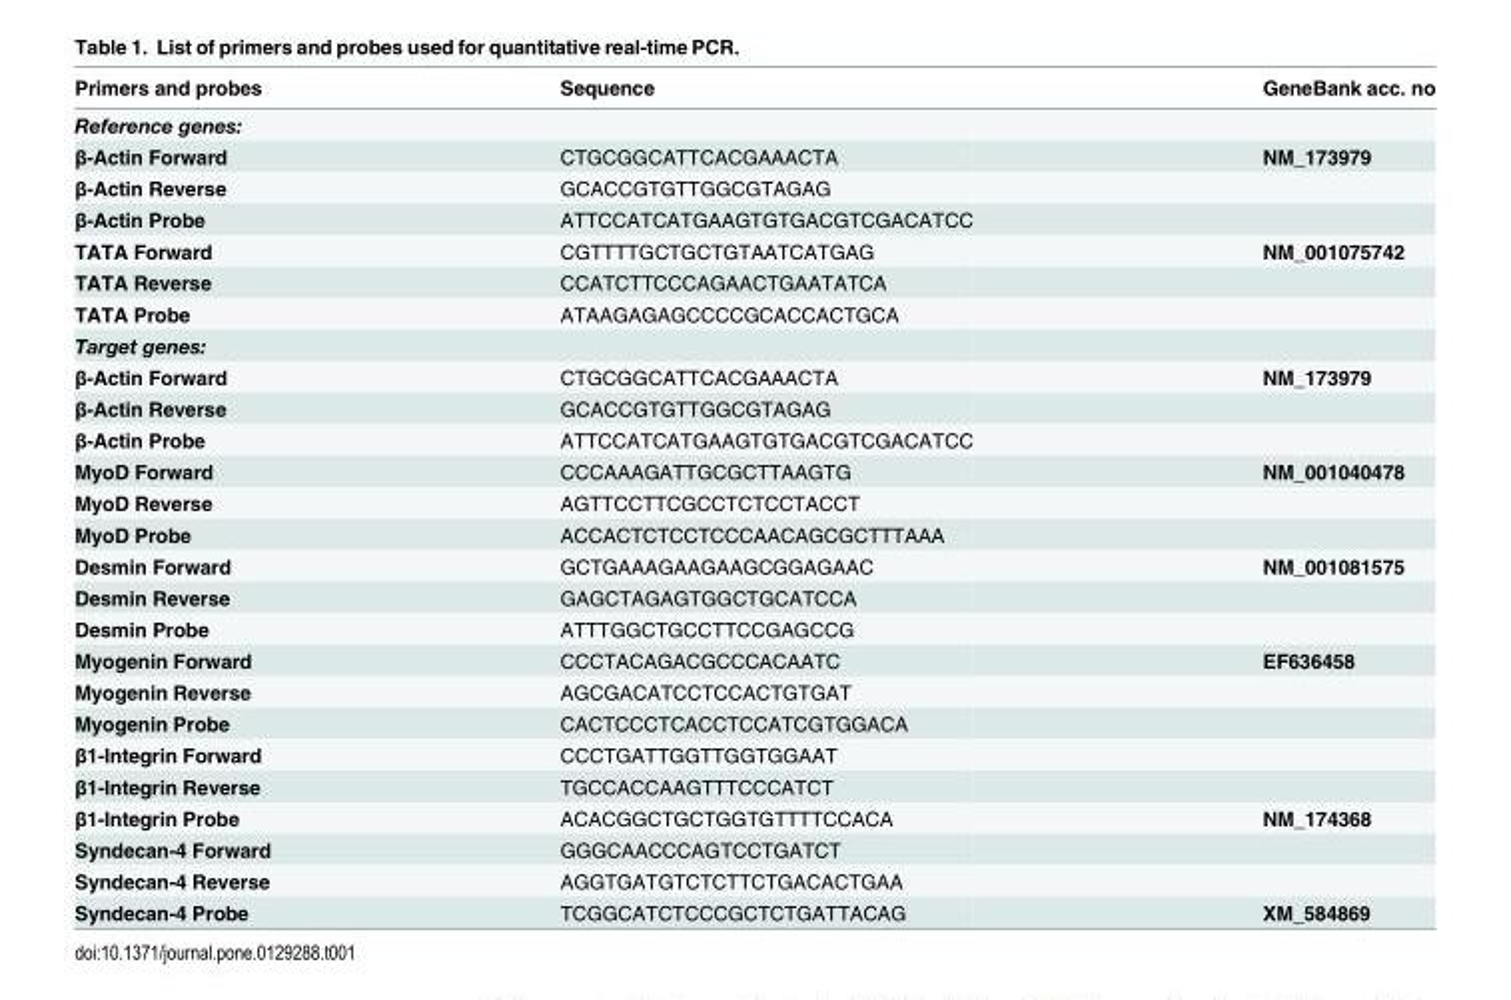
<table><thead><tr><td>Primers and probes</td><td>Sequence</td><td>GeneBank acc. no</td></tr></thead><tbody><tr><td colspan="3">Reference genes:</td></tr><tr><td>β-Actin Forward</td><td>CTGCGGCATTCACGAAACTA</td><td>NM_173979</td></tr><tr><td>β-Actin Reverse</td><td>GCACCGTGTTGGCGTAGAG</td><td></td></tr><tr><td>β-Actin Probe</td><td>ATTCCATCATGAAGTGTGACGTCGACATCC</td><td></td></tr><tr><td>TATA Forward</td><td>CGTTTTGCTGCTGTAATCATGAG</td><td>NM_001075742</td></tr><tr><td>TATA Reverse</td><td>CCATCTTCCCAGAACTGAATATCA</td><td></td></tr><tr><td>TATA Probe</td><td>ATAAGAGAGCCCCGCACCACTGCA</td><td></td></tr><tr><td colspan="3">Target genes:</td></tr><tr><td>β-Actin Forward</td><td>CTGCGGCATTCACGAAACTA</td><td>NM_173979</td></tr><tr><td>β-Actin Reverse</td><td>GCACCGTGTTGGCGTAGAG</td><td></td></tr><tr><td>β-Actin Probe</td><td>ATTCCATCATGAAGTGTGACGTCGACATCC</td><td></td></tr><tr><td>MyoD Forward</td><td>CCCAAAGATTGCGCTTAAGTG</td><td>NM_001040478</td></tr><tr><td>MyoD Reverse</td><td>AGTTCCTTCGCCTCTCCTACCT</td><td></td></tr><tr><td>MyoD Probe</td><td>ACCACTCTCCTCCCAACAGCGCTTTAAA</td><td></td></tr><tr><td>Desmin Forward</td><td>GCTGAAAGAAGAAGCGGAGAAC</td><td>NM_001081575</td></tr><tr><td>Desmin Reverse</td><td>GAGCTAGAGTGGCTGCATCCA</td><td></td></tr><tr><td>Desmin Probe</td><td>ATTTGGCTGCCTTCCGAGCCG</td><td></td></tr><tr><td>Myogenin Forward</td><td>CCCTACAGACGCCCACAATC</td><td>EF636458</td></tr><tr><td>Myogenin Reverse</td><td>AGCGACATCCTCCACTGTGAT</td><td></td></tr><tr><td>Myogenin Probe</td><td>CACTCCCTCACCTCCATCGTGGACA</td><td></td></tr><tr><td>β1-Integrin Forward</td><td>CCCTGATTGGTTGGTGGAAT</td><td></td></tr><tr><td>β1-Integrin Reverse</td><td>TGCCACCAAGTTTCCCATCT</td><td></td></tr><tr><td>β1-Integrin Probe</td><td>ACACGGCTGCTGGTGTTTTCCACA</td><td>NM_174368</td></tr><tr><td>Syndecan-4 Forward</td><td>GGGCAACCCAGTCCTGATCT</td><td></td></tr><tr><td>Syndecan-4 Reverse</td><td>AGGTGATGTCTCTTCTGACACTGAA</td><td></td></tr><tr><td>Syndecan-4 Probe</td><td>TCGGCATCTCCCGCTCTGATTACAG</td><td>XM_584869</td></tr></tbody></table>